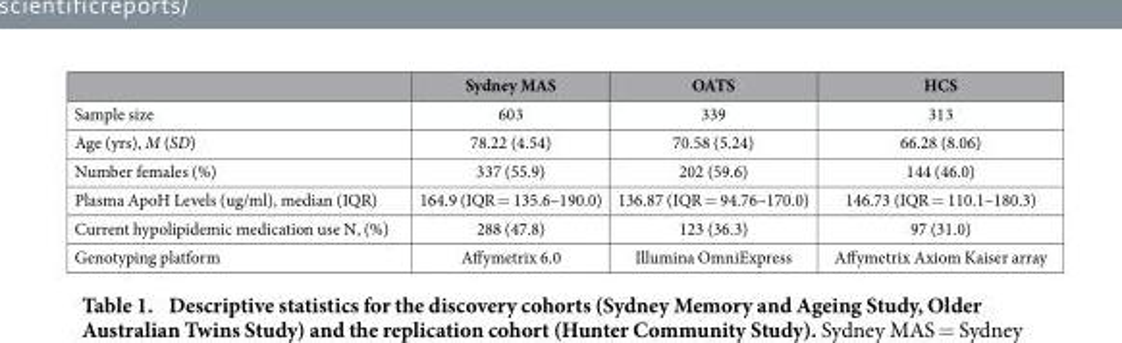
<table><thead><tr><td></td><td>Sydney MAS</td><td>OATS</td><td>HCS</td></tr></thead><tbody><tr><td>Sample size</td><td>603</td><td>339</td><td>313</td></tr><tr><td>Age (yrs), M (SD)</td><td>78.22 (4.54)</td><td>70.58 (5.24)</td><td>66.28 (8.06)</td></tr><tr><td>Number females (%)</td><td>337 (55.9)</td><td>202 (59.6)</td><td>144 (46.0)</td></tr><tr><td>Plasma ApoH Levels (ug/ml), median (IQR)</td><td>164.9 (IQR = 135.6–190.0)</td><td>136.87 (IQR = 94.76–170.0)</td><td>146.73 (IQR = 110.1–180.3)</td></tr><tr><td>Current hypolipidemic medication use N, (%)</td><td>288 (47.8)</td><td>123 (36.3)</td><td>97 (31.0)</td></tr><tr><td>Genotyping platform</td><td>Affymetrix 6.0</td><td>Illumina OmniExpress</td><td>Affymetrix Axiom Kaiser array</td></tr></tbody></table>